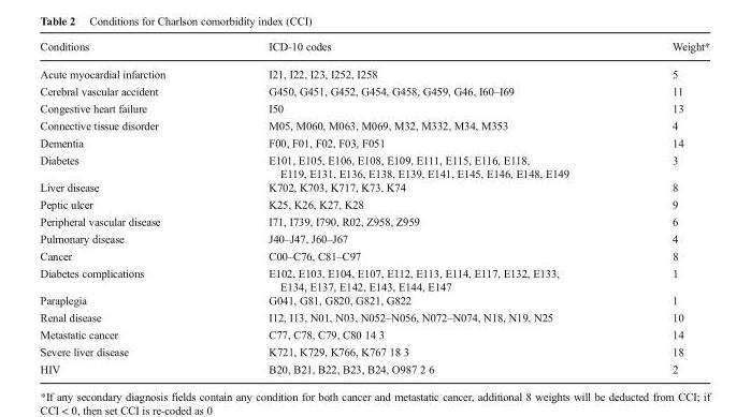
<table><thead><tr><td>Conditions</td><td>ICD-10 codes</td><td>Weight*</td></tr></thead><tbody><tr><td>Acute myocardial infarction</td><td>I21, I22, I23, I252, I258</td><td>5</td></tr><tr><td>Cerebral vascular accident</td><td>G450, G451, G452, G454, G458, G459, G46, I60–I69</td><td>11</td></tr><tr><td>Congestive heart failure</td><td>I50</td><td>13</td></tr><tr><td>Connective tissue disorder</td><td>M05, M060, M063, M069, M32, M332, M34, M353</td><td>4</td></tr><tr><td>Dementia</td><td>F00, F01, F02, F03, F051</td><td>14</td></tr><tr><td>Diabetes</td><td>E101, E105, E106, E108, E109, E111, E115, E116, E118, E119, E131, E136, E138, E139, E141, E145, E146, E148, E149</td><td>3</td></tr><tr><td>Liver disease</td><td>K702, K703, K717, K73, K74</td><td>8</td></tr><tr><td>Peptic ulcer</td><td>K25, K26, K27, K28</td><td>9</td></tr><tr><td>Peripheral vascular disease</td><td>I71, I739, I790, R02, Z958, Z959</td><td>6</td></tr><tr><td>Pulmonary disease</td><td>J40–J47, J60–J67</td><td>4</td></tr><tr><td>Cancer</td><td>C00–C76, C81–C97</td><td>8</td></tr><tr><td>Diabetes complications</td><td>E102, E103, E104, E107, E112, E113, E114, E117, E132, E133, E134, E137, E142, E143, E144, E147</td><td>1</td></tr><tr><td>Paraplegia</td><td>G041, G81, G820, G821, G822</td><td>1</td></tr><tr><td>Renal disease</td><td>I12, I13, N01, N03, N052–N056, N072–N074, N18, N19, N25</td><td>10</td></tr><tr><td>Metastatic cancer</td><td>C77, C78, C79, C80 14 3</td><td>14</td></tr><tr><td>Severe liver disease</td><td>K721, K729, K766, K767 18 3</td><td>18</td></tr><tr><td>HIV</td><td>B20, B21, B22, B23, B24, O987 2 6</td><td>2</td></tr></tbody></table>